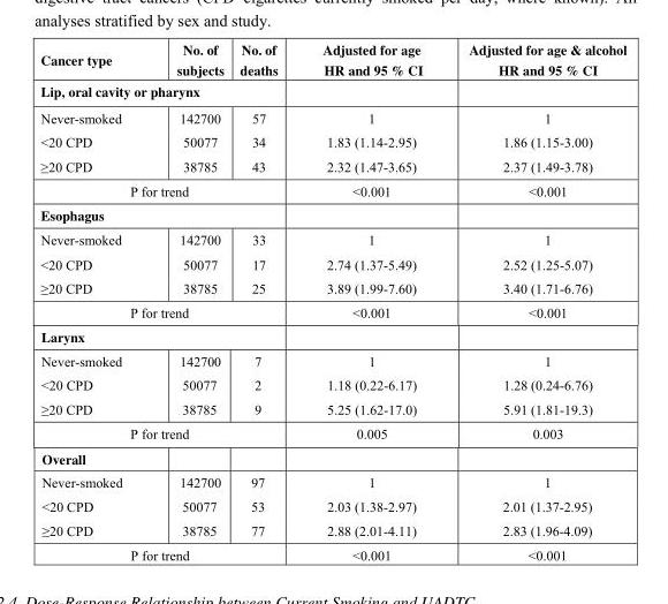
<table><thead><tr><td>Cancer type</td><td>No. of subjects</td><td>No. of deaths</td><td>Adjusted for age HR and 95 % CI</td><td>Adjusted for age &amp; alcohol HR and 95 % CI</td></tr></thead><tbody><tr><td colspan="5">Lip, oral cavity or pharynx</td></tr><tr><td>Never-smoked</td><td>142700</td><td>57</td><td>1</td><td>1</td></tr><tr><td>&lt;20 CPD</td><td>50077</td><td>34</td><td>1.83 (1.14-2.95)</td><td>1.86 (1.15-3.00)</td></tr><tr><td>≥20 CPD</td><td>38785</td><td>43</td><td>2.32 (1.47-3.65)</td><td>2.37 (1.49-3.78)</td></tr><tr><td colspan="3">P for trend</td><td>&lt;0.001</td><td>&lt;0.001</td></tr><tr><td colspan="5">Esophagus</td></tr><tr><td>Never-smoked</td><td>142700</td><td>33</td><td>1</td><td>1</td></tr><tr><td>&lt;20 CPD</td><td>50077</td><td>17</td><td>2.74 (1.37-5.49)</td><td>2.52 (1.25-5.07)</td></tr><tr><td>≥20 CPD</td><td>38785</td><td>25</td><td>3.89 (1.99-7.60)</td><td>3.40 (1.71-6.76)</td></tr><tr><td colspan="3">P for trend</td><td>&lt;0.001</td><td>&lt;0.001</td></tr><tr><td colspan="5">Larynx</td></tr><tr><td>Never-smoked</td><td>142700</td><td>7</td><td>1</td><td>1</td></tr><tr><td>&lt;20 CPD</td><td>50077</td><td>2</td><td>1.18 (0.22-6.17)</td><td>1.28 (0.24-6.76)</td></tr><tr><td>≥20 CPD</td><td>38785</td><td>9</td><td>5.25 (1.62-17.0)</td><td>5.91 (1.81-19.3)</td></tr><tr><td colspan="3">P for trend</td><td>0.005</td><td>0.003</td></tr><tr><td colspan="5">Overall</td></tr><tr><td>Never-smoked</td><td>142700</td><td>97</td><td>1</td><td>1</td></tr><tr><td>&lt;20 CPD</td><td>50077</td><td>53</td><td>2.03 (1.38-2.97)</td><td>2.01 (1.37-2.95)</td></tr><tr><td>≥20 CPD</td><td>38785</td><td>77</td><td>2.88 (2.01-4.11)</td><td>2.83 (1.96-4.09)</td></tr><tr><td colspan="3">P for trend</td><td>&lt;0.001</td><td>&lt;0.001</td></tr></tbody></table>